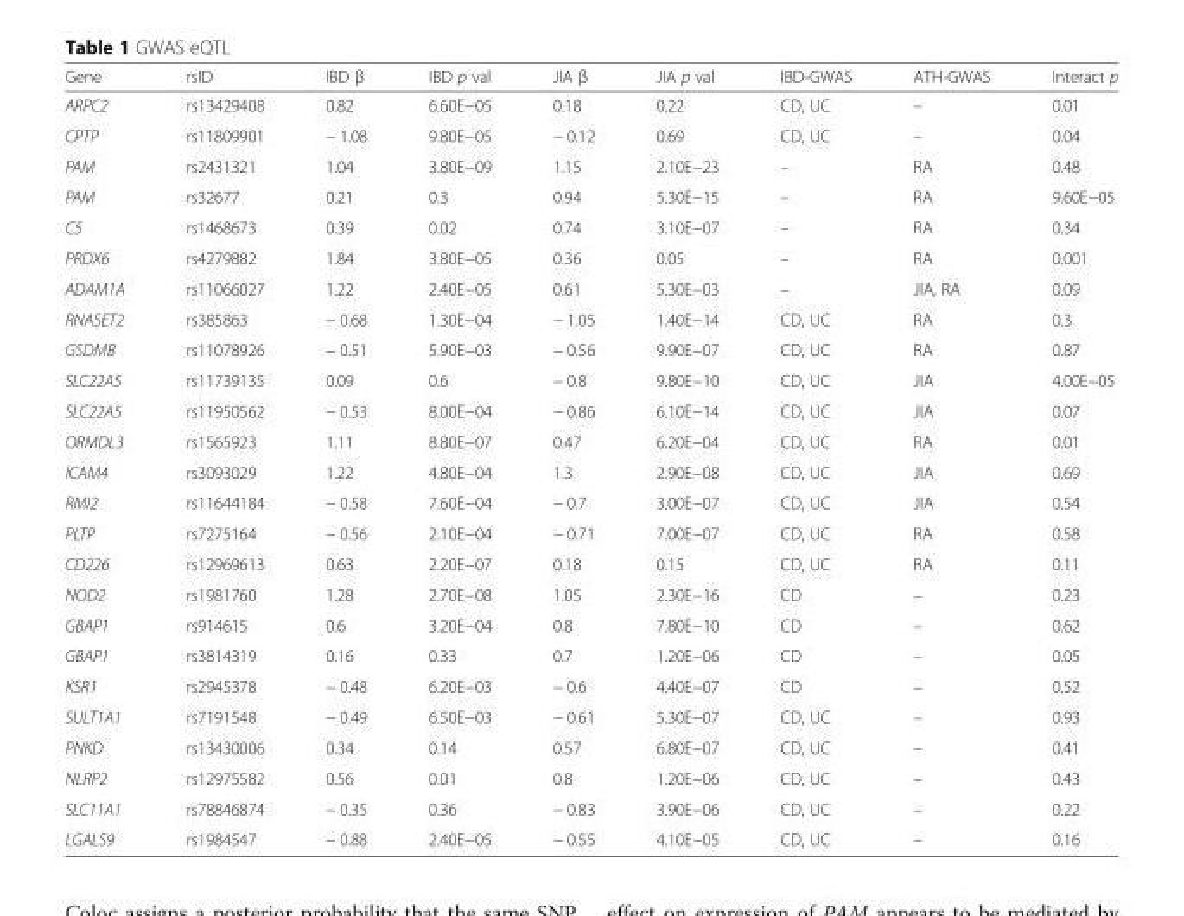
<table><thead><tr><td>Gene</td><td>rsID</td><td>IBD β</td><td>IBD p val</td><td>JIA β</td><td>JIA p val</td><td>IBD-GWAS</td><td>ATH-GWAS</td><td>Interact p</td></tr></thead><tbody><tr><td>ARPC2</td><td>rs13429408</td><td>0.82</td><td>6.60E−05</td><td>0.18</td><td>0.22</td><td>CD, UC</td><td>–</td><td>0.01</td></tr><tr><td>CPTP</td><td>rs11809901</td><td>− 1.08</td><td>9.80E−05</td><td>− 0.12</td><td>0.69</td><td>CD, UC</td><td>–</td><td>0.04</td></tr><tr><td>PAM</td><td>rs2431321</td><td>1.04</td><td>3.80E−09</td><td>1.15</td><td>2.10E−23</td><td>–</td><td>RA</td><td>0.48</td></tr><tr><td>PAM</td><td>rs32677</td><td>0.21</td><td>0.3</td><td>0.94</td><td>5.30E−15</td><td>–</td><td>RA</td><td>9.60E−05</td></tr><tr><td>C5</td><td>rs1468673</td><td>0.39</td><td>0.02</td><td>0.74</td><td>3.10E−07</td><td>–</td><td>RA</td><td>0.34</td></tr><tr><td>PRDX6</td><td>rs4279882</td><td>1.84</td><td>3.80E−05</td><td>0.36</td><td>0.05</td><td>–</td><td>RA</td><td>0.001</td></tr><tr><td>ADAM1A</td><td>rs11066027</td><td>1.22</td><td>2.40E−05</td><td>0.61</td><td>5.30E−03</td><td>–</td><td>JIA, RA</td><td>0.09</td></tr><tr><td>RNASET2</td><td>rs385863</td><td>− 0.68</td><td>1.30E−04</td><td>− 1.05</td><td>1.40E−14</td><td>CD, UC</td><td>RA</td><td>0.3</td></tr><tr><td>GSDMB</td><td>rs11078926</td><td>− 0.51</td><td>5.90E−03</td><td>− 0.56</td><td>9.90E−07</td><td>CD, UC</td><td>RA</td><td>0.87</td></tr><tr><td>SLC22A5</td><td>rs11739135</td><td>0.09</td><td>0.6</td><td>− 0.8</td><td>9.80E−10</td><td>CD, UC</td><td>JIA</td><td>4.00E−05</td></tr><tr><td>SLC22A5</td><td>rs11950562</td><td>− 0.53</td><td>8.00E−04</td><td>− 0.86</td><td>6.10E−14</td><td>CD, UC</td><td>JIA</td><td>0.07</td></tr><tr><td>ORMDL3</td><td>rs1565923</td><td>1.11</td><td>8.80E−07</td><td>0.47</td><td>6.20E−04</td><td>CD, UC</td><td>RA</td><td>0.01</td></tr><tr><td>ICAM4</td><td>rs3093029</td><td>1.22</td><td>4.80E−04</td><td>1.3</td><td>2.90E−08</td><td>CD, UC</td><td>JIA</td><td>0.69</td></tr><tr><td>RMI2</td><td>rs11644184</td><td>− 0.58</td><td>7.60E−04</td><td>− 0.7</td><td>3.00E−07</td><td>CD, UC</td><td>JIA</td><td>0.54</td></tr><tr><td>PLTP</td><td>rs7275164</td><td>− 0.56</td><td>2.10E−04</td><td>− 0.71</td><td>7.00E−07</td><td>CD, UC</td><td>RA</td><td>0.58</td></tr><tr><td>CD226</td><td>rs12969613</td><td>0.63</td><td>2.20E−07</td><td>0.18</td><td>0.15</td><td>CD, UC</td><td>RA</td><td>0.11</td></tr><tr><td>NOD2</td><td>rs1981760</td><td>1.28</td><td>2.70E−08</td><td>1.05</td><td>2.30E−16</td><td>CD</td><td>–</td><td>0.23</td></tr><tr><td>GBAP1</td><td>rs914615</td><td>0.6</td><td>3.20E−04</td><td>0.8</td><td>7.80E−10</td><td>CD</td><td>–</td><td>0.62</td></tr><tr><td>GBAP1</td><td>rs3814319</td><td>0.16</td><td>0.33</td><td>0.7</td><td>1.20E−06</td><td>CD</td><td>–</td><td>0.05</td></tr><tr><td>KSR1</td><td>rs2945378</td><td>− 0.48</td><td>6.20E−03</td><td>− 0.6</td><td>4.40E−07</td><td>CD</td><td>–</td><td>0.52</td></tr><tr><td>SULT1A1</td><td>rs7191548</td><td>− 0.49</td><td>6.50E−03</td><td>− 0.61</td><td>5.30E−07</td><td>CD, UC</td><td>–</td><td>0.93</td></tr><tr><td>PNKD</td><td>rs13430006</td><td>0.34</td><td>0.14</td><td>0.57</td><td>6.80E−07</td><td>CD, UC</td><td>–</td><td>0.41</td></tr><tr><td>NLRP2</td><td>rs12975582</td><td>0.56</td><td>0.01</td><td>0.8</td><td>1.20E−06</td><td>CD, UC</td><td>–</td><td>0.43</td></tr><tr><td>SLC11A1</td><td>rs78846874</td><td>− 0.35</td><td>0.36</td><td>− 0.83</td><td>3.90E−06</td><td>CD, UC</td><td>–</td><td>0.22</td></tr><tr><td>LGALS9</td><td>rs1984547</td><td>− 0.88</td><td>2.40E−05</td><td>− 0.55</td><td>4.10E−05</td><td>CD, UC</td><td>–</td><td>0.16</td></tr></tbody></table>